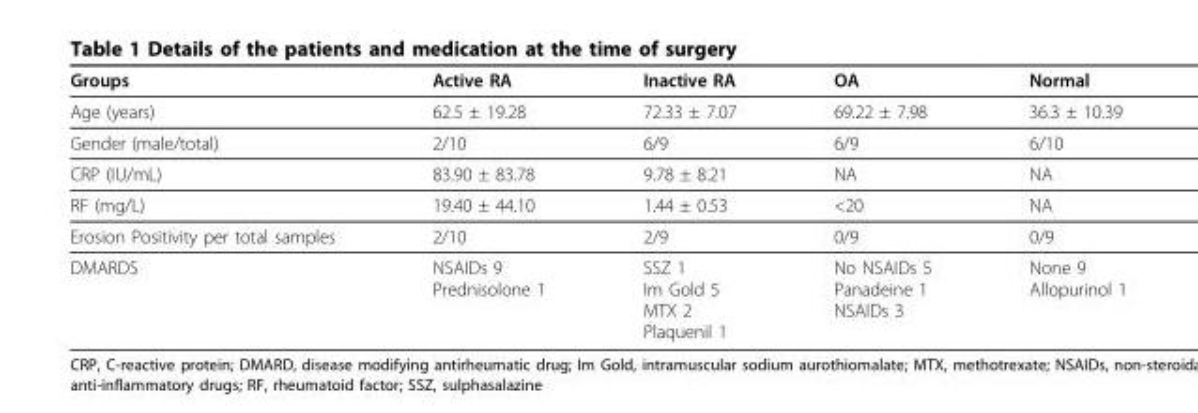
<table><thead><tr><td>Groups</td><td>Active RA</td><td>Inactive RA</td><td>OA</td><td>Normal</td></tr></thead><tbody><tr><td>Age (years)</td><td>62.5 ± 19.28</td><td>72.33 ± 7.07</td><td>69.22 ± 7.98</td><td>36.3 ± 10.39</td></tr><tr><td>Gender (male/total)</td><td>2/10</td><td>6/9</td><td>6/9</td><td>6/10</td></tr><tr><td>CRP (IU/mL)</td><td>83.90 ± 83.78</td><td>9.78 ± 8.21</td><td>NA</td><td>NA</td></tr><tr><td>RF (mg/L)</td><td>19.40 ± 44.10</td><td>1.44 ± 0.53</td><td>&lt;20</td><td>NA</td></tr><tr><td>Erosion Positivity per total samples</td><td>2/10</td><td>2/9</td><td>0/9</td><td>0/9</td></tr><tr><td>DMARDS</td><td>NSAIDs 9 Prednisolone 1</td><td>SSZ 1 Im Gold 5 MTX 2 Plaquenil 1</td><td>No NSAIDs 5 Panadeine 1 NSAIDs 3</td><td>None 9 Allopurinol 1</td></tr></tbody></table>